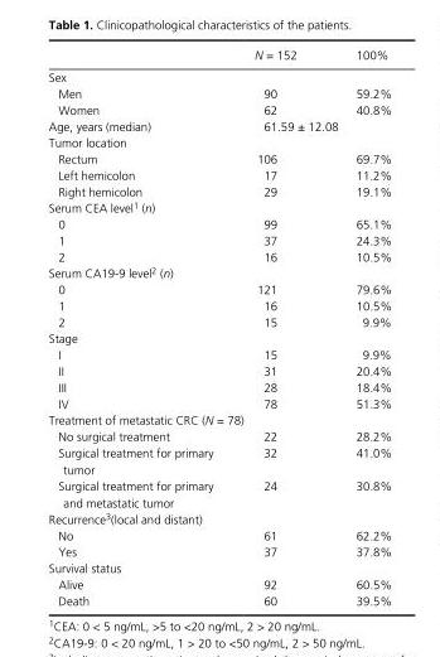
<table><thead><tr><td></td><td>N = 152</td><td>100%</td></tr></thead><tbody><tr><td colspan="3">Sex</td></tr><tr><td>Men</td><td>90</td><td>59.2%</td></tr><tr><td>Women</td><td>62</td><td>40.8%</td></tr><tr><td>Age, years (median)</td><td colspan="2">61.59 ± 12.08</td></tr><tr><td colspan="3">Tumor location</td></tr><tr><td>Rectum</td><td>106</td><td>69.7%</td></tr><tr><td>Left hemicolon</td><td>17</td><td>11.2%</td></tr><tr><td>Right hemicolon</td><td>29</td><td>19.1%</td></tr><tr><td colspan="3">Serum CEA level1 (n)</td></tr><tr><td>0</td><td>99</td><td>65.1%</td></tr><tr><td>1</td><td>37</td><td>24.3%</td></tr><tr><td>2</td><td>16</td><td>10.5%</td></tr><tr><td colspan="3">Serum CA19- 9 level2 (n)</td></tr><tr><td>0</td><td>121</td><td>79.6%</td></tr><tr><td>1</td><td>16</td><td>10.5%</td></tr><tr><td>2</td><td>15</td><td>9.9%</td></tr><tr><td colspan="3">Stage</td></tr><tr><td>I</td><td>15</td><td>9.9%</td></tr><tr><td>II</td><td>31</td><td>20.4%</td></tr><tr><td>III</td><td>28</td><td>18.4%</td></tr><tr><td>IV</td><td>78</td><td>51.3%</td></tr><tr><td colspan="3">Treatment of metastatic CRC (N = 78)</td></tr><tr><td>No surgical treatment</td><td>22</td><td>28.2%</td></tr><tr><td>Surgical treatment for primary tumor</td><td>32</td><td>41.0%</td></tr><tr><td>Surgical treatment for primary and metastatic tumor</td><td>24</td><td>30.8%</td></tr><tr><td colspan="3">Recurrence3(local and distant)</td></tr><tr><td>No</td><td>61</td><td>62.2%</td></tr><tr><td>Yes</td><td>37</td><td>37.8%</td></tr><tr><td colspan="3">Survival status</td></tr><tr><td>Alive</td><td>92</td><td>60.5%</td></tr><tr><td>Death</td><td>60</td><td>39.5%</td></tr></tbody></table>